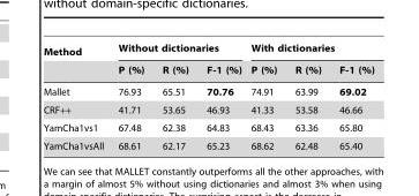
<table><thead><tr><td rowspan="2">Method</td><td colspan="3">Without dictionaries</td><td colspan="3">With dictionaries</td></tr><tr><td>P (%)</td><td>R (%)</td><td>F-1 (%)</td><td>P (%)</td><td>R (%)</td><td>F-1 (%)</td></tr></thead><tbody><tr><td>Mallet</td><td>76.93</td><td>65.51</td><td>70.76</td><td>74.91</td><td>63.99</td><td>69.02</td></tr><tr><td>CRF++</td><td>41.71</td><td>53.65</td><td>46.93</td><td>41.33</td><td>53.58</td><td>46.66</td></tr><tr><td>YamCha1vs1</td><td>67.48</td><td>62.38</td><td>64.83</td><td>68.43</td><td>63.36</td><td>65.80</td></tr><tr><td>YamCha1vsAll</td><td>68.61</td><td>62.17</td><td>65.23</td><td>68.62</td><td>62.48</td><td>65.40</td></tr></tbody></table>